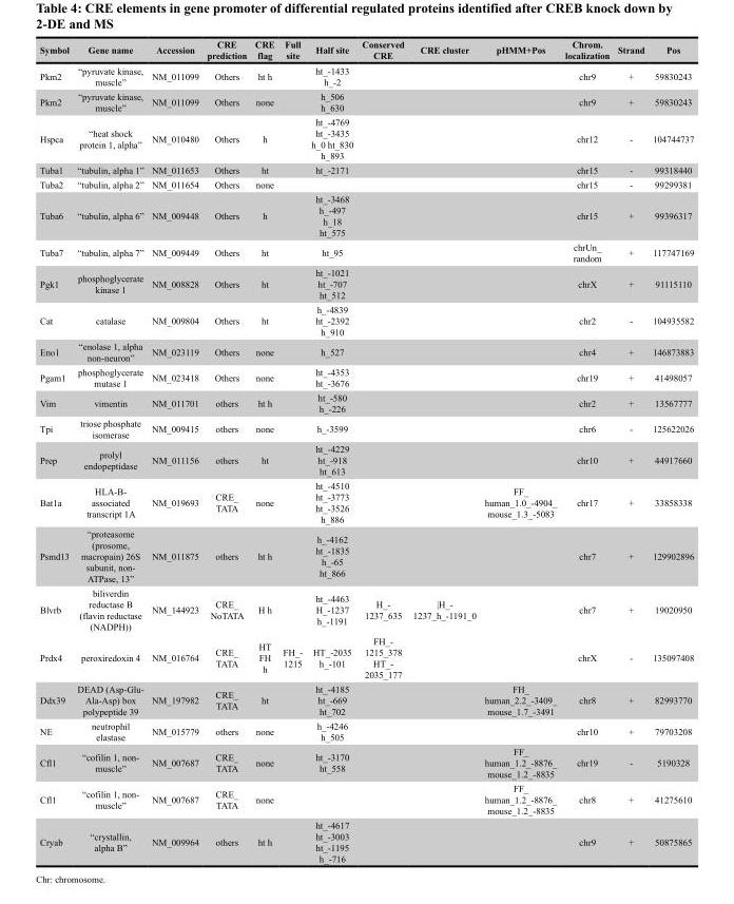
<table><thead><tr><td>Symbol</td><td>Gene name</td><td>Accession</td><td>CRE prediction</td><td>CRE flag</td><td>Full site</td><td>Half site</td><td>Conserved CRE</td><td>CRE cluster</td><td>pHMM+Pos</td><td>Chrom. localization</td><td>Strand</td><td>Pos</td></tr></thead><tbody><tr><td>Pkm2</td><td>“pyruvate kinase, muscle”</td><td>NM_011099</td><td>Others</td><td>ht h</td><td></td><td>ht_-1433 h_-2</td><td></td><td></td><td></td><td>chr9</td><td>+</td><td>59830243</td></tr><tr><td>Pkm2</td><td>“pyruvate kinase, muscle”</td><td>NM_011099</td><td>Others</td><td>none</td><td></td><td>h_506 h_630</td><td></td><td></td><td></td><td>chr9</td><td>+</td><td>59830243</td></tr><tr><td>Hspca</td><td>“heat shock protein 1, alpha”</td><td>NM_010480</td><td>Others</td><td>h</td><td></td><td>ht_-4769 ht_-3435 h_0 ht_830 h_893</td><td></td><td></td><td></td><td>chr12</td><td>-</td><td>104744737</td></tr><tr><td>Tuba1</td><td>“tubulin, alpha 1”</td><td>NM_011653</td><td>Others</td><td>ht</td><td></td><td>ht_-2171</td><td></td><td></td><td></td><td>chr15</td><td>-</td><td>99318440</td></tr><tr><td>Tuba2</td><td>“tubulin, alpha 2”</td><td>NM_011654</td><td>Others</td><td>none</td><td></td><td></td><td></td><td></td><td></td><td>chr15</td><td>-</td><td>99299381</td></tr><tr><td>Tuba6</td><td>“tubulin, alpha 6”</td><td>NM_009448</td><td>Others</td><td>h</td><td></td><td>ht_-3468 h_-497 h_18 ht_575</td><td></td><td></td><td></td><td>chr15</td><td>+</td><td>99396317</td></tr><tr><td>Tuba7</td><td>“tubulin, alpha 7”</td><td>NM_009449</td><td>Others</td><td>ht</td><td></td><td>ht_95</td><td></td><td></td><td></td><td>chrUn_ random</td><td>+</td><td>117747169</td></tr><tr><td>Pgk1</td><td>phosphoglycerate kinase 1</td><td>NM_008828</td><td>Others</td><td>ht</td><td></td><td>ht_-1021 ht_-707 ht_512</td><td></td><td></td><td></td><td>chrX</td><td>+</td><td>91115110</td></tr><tr><td>Cat</td><td>catalase</td><td>NM_009804</td><td>Others</td><td>ht</td><td></td><td>h_-4839 ht_-2392 h_910</td><td></td><td></td><td></td><td>chr2</td><td>-</td><td>104935582</td></tr><tr><td>Eno1</td><td>“enolase 1, alpha non-neuron”</td><td>NM_023119</td><td>Others</td><td>none</td><td></td><td>h_527</td><td></td><td></td><td></td><td>chr4</td><td>+</td><td>146873883</td></tr><tr><td>Pgam1</td><td>phosphoglycerate mutase 1</td><td>NM_023418</td><td>Others</td><td>none</td><td></td><td>ht_-4353 ht_-3676</td><td></td><td></td><td></td><td>chr19</td><td>+</td><td>41498057</td></tr><tr><td>Vim</td><td>vimentin</td><td>NM_011701</td><td>others</td><td>ht h</td><td></td><td>ht_-580 h_-226</td><td></td><td></td><td></td><td>chr2</td><td>+</td><td>13567777</td></tr><tr><td>Tpi</td><td>triose phosphate isomerase</td><td>NM_009415</td><td>others</td><td>none</td><td></td><td>h_-3599</td><td></td><td></td><td></td><td>chr6</td><td>-</td><td>125622026</td></tr><tr><td>Prep</td><td>prolyl endopeptidase</td><td>NM_011156</td><td>others</td><td>ht</td><td></td><td>ht_-4229 ht_-918 ht_613</td><td></td><td></td><td></td><td>chr10</td><td>+</td><td>44917660</td></tr><tr><td>Bat1a</td><td>HLA-B- associated transcript 1A</td><td>NM_019693</td><td>CRE_ TATA</td><td>none</td><td></td><td>ht_-4510 ht_-3773 ht_-3526 h_886</td><td></td><td></td><td>FF_ human_1.0_-4904_ mouse_1.3_-5083</td><td>chr17</td><td>+</td><td>33858338</td></tr><tr><td>Psmd13</td><td>“proteasome (prosome, macropain) 26S subunit, non- ATPase, 13”</td><td>NM_011875</td><td>others</td><td>ht h</td><td></td><td>h_-4162 ht_-1835 h_-65 ht_866</td><td></td><td></td><td></td><td>chr7</td><td>+</td><td>129902896</td></tr><tr><td>Blvrb</td><td>biliverdin reductase B (flavin reductase (NADPH))</td><td>NM_144923</td><td>CRE_ NoTATA</td><td>H h</td><td></td><td>ht_-4463 H_-1237 h_-1191</td><td>H_- 1237_635</td><td>|H_- 1237_h_-1191_0</td><td></td><td>chr7</td><td>+</td><td>19020950</td></tr><tr><td>Prdx4</td><td>peroxiredoxin 4</td><td>NM_016764</td><td>CRE_ TATA</td><td>HT FH h</td><td>FH_- 1215</td><td>HT_-2035 h_-101</td><td>FH_- 1215_378 HT_- 2035_177</td><td></td><td></td><td>chrX</td><td>-</td><td>135097408</td></tr><tr><td>Ddx39</td><td>DEAD (Asp-Glu- Ala-Asp) box polypeptide 39</td><td>NM_197982</td><td>CRE_ TATA</td><td>ht</td><td></td><td>ht_-4185 ht_-669 ht_702</td><td></td><td></td><td>FH_ human_2.2_-3409_ mouse_1.7_-3491</td><td>chr8</td><td>+</td><td>82993770</td></tr><tr><td>NE</td><td>neutrophil elastase</td><td>NM_015779</td><td>others</td><td>none</td><td></td><td>h_-4246 h_505</td><td></td><td></td><td></td><td>chr10</td><td>+</td><td>79703208</td></tr><tr><td>Cfl1</td><td>“cofilin 1, non- muscle”</td><td>NM_007687</td><td>CRE_ TATA</td><td>none</td><td></td><td>ht_-3170 ht_558</td><td></td><td></td><td>FF_ human_1.2_-8876_ mouse_1.2_-8835</td><td>chr19</td><td>-</td><td>5190328</td></tr><tr><td>Cfl1</td><td>“cofilin 1, non- muscle”</td><td>NM_007687</td><td>CRE_ TATA</td><td>none</td><td></td><td></td><td></td><td></td><td>FF_ human_1.2_-8876_ mouse_1.2_-8835</td><td>chr8</td><td>+</td><td>41275610</td></tr><tr><td>Cryab</td><td>“crystallin, alpha B”</td><td>NM_009964</td><td>others</td><td>ht h</td><td></td><td>ht_-4617 ht_-3003 ht_-1195 h_-716</td><td></td><td></td><td></td><td>chr9</td><td>+</td><td>50875865</td></tr></tbody></table>